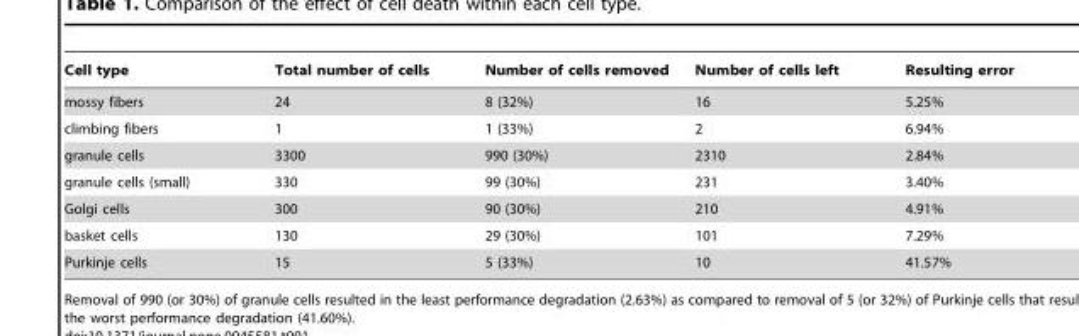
<table><thead><tr><td>Cell type</td><td>Total number of cells</td><td>Number of cells removed</td><td>Number of cells left</td><td>Resulting error</td></tr></thead><tbody><tr><td>mossy fibers</td><td>24</td><td>8 (32%)</td><td>16</td><td>5.25%</td></tr><tr><td>climbing fibers</td><td>1</td><td>1 (33%)</td><td>2</td><td>6.94%</td></tr><tr><td>granule cells</td><td>3300</td><td>990 (30%)</td><td>2310</td><td>2.84%</td></tr><tr><td>granule cells (small)</td><td>330</td><td>99 (30%)</td><td>231</td><td>3.40%</td></tr><tr><td>Golgi cells</td><td>300</td><td>90 (30%)</td><td>210</td><td>4.91%</td></tr><tr><td>basket cells</td><td>130</td><td>29 (30%)</td><td>101</td><td>7.29%</td></tr><tr><td>Purkinje cells</td><td>15</td><td>5 (33%)</td><td>10</td><td>41.57%</td></tr></tbody></table>